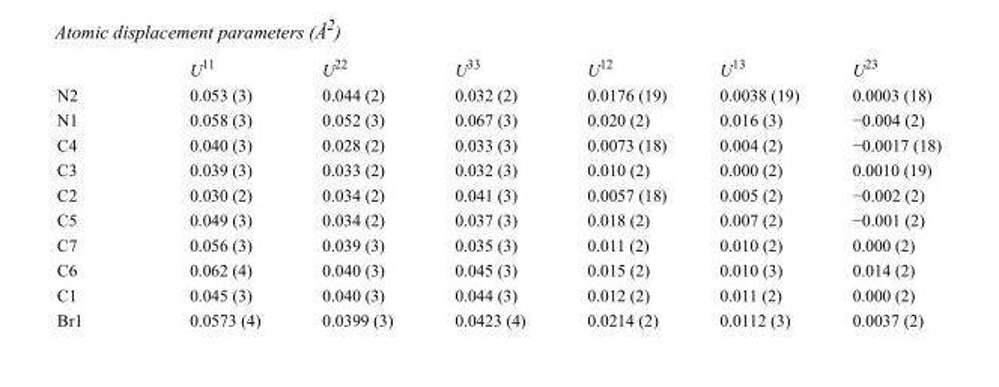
<table><thead><tr><td></td><td>U<sup>11</sup></td><td>U<sup>22</sup></td><td>U<sup>33</sup></td><td>U<sup>12</sup></td><td>U<sup>13</sup></td><td>U<sup>23</sup></td></tr></thead><tbody><tr><td>N2</td><td>0.053 (3)</td><td>0.044 (2)</td><td>0.032 (2)</td><td>0.0176 (19)</td><td>0.0038 (19)</td><td>0.0003 (18)</td></tr><tr><td>N1</td><td>0.058 (3)</td><td>0.052 (3)</td><td>0.067 (3)</td><td>0.020 (2)</td><td>0.016 (3)</td><td>−0.004 (2)</td></tr><tr><td>C4</td><td>0.040 (3)</td><td>0.028 (2)</td><td>0.033 (3)</td><td>0.0073 (18)</td><td>0.004 (2)</td><td>−0.0017 (18)</td></tr><tr><td>C3</td><td>0.039 (3)</td><td>0.033 (2)</td><td>0.032 (3)</td><td>0.010 (2)</td><td>0.000 (2)</td><td>0.0010 (19)</td></tr><tr><td>C2</td><td>0.030 (2)</td><td>0.034 (2)</td><td>0.041 (3)</td><td>0.0057 (18)</td><td>0.005 (2)</td><td>−0.002 (2)</td></tr><tr><td>C5</td><td>0.049 (3)</td><td>0.034 (2)</td><td>0.037 (3)</td><td>0.018 (2)</td><td>0.007 (2)</td><td>−0.001 (2)</td></tr><tr><td>C7</td><td>0.056 (3)</td><td>0.039 (3)</td><td>0.035 (3)</td><td>0.011 (2)</td><td>0.010 (2)</td><td>0.000 (2)</td></tr><tr><td>C6</td><td>0.062 (4)</td><td>0.040 (3)</td><td>0.045 (3)</td><td>0.015 (2)</td><td>0.010 (3)</td><td>0.014 (2)</td></tr><tr><td>C1</td><td>0.045 (3)</td><td>0.040 (3)</td><td>0.044 (3)</td><td>0.012 (2)</td><td>0.011 (2)</td><td>0.000 (2)</td></tr><tr><td>Br1</td><td>0.0573 (4)</td><td>0.0399 (3)</td><td>0.0423 (4)</td><td>0.0214 (2)</td><td>0.0112 (3)</td><td>0.0037 (2)</td></tr></tbody></table>